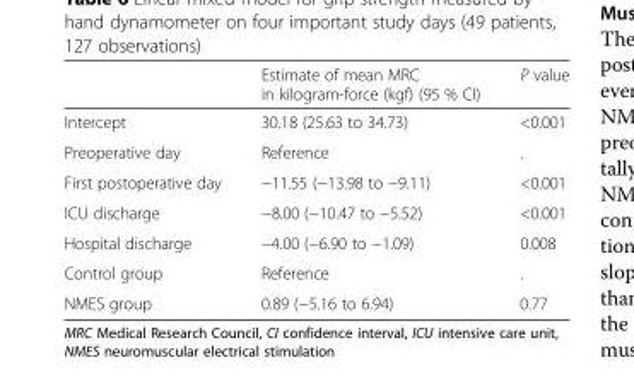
<table><thead><tr><td></td><td>Estimate of mean MRC in kilogram-force (kgf) (95 % CI)</td><td>P value</td></tr></thead><tbody><tr><td>Intercept</td><td>30.18 (25.63 to 34.73)</td><td>&lt;0.001</td></tr><tr><td>Preoperative day</td><td>Reference</td><td>.</td></tr><tr><td>First postoperative day</td><td>−11.55 (−13.98 to −9.11)</td><td>&lt;0.001</td></tr><tr><td>ICU discharge</td><td>−8.00 (−10.47 to −5.52)</td><td>&lt;0.001</td></tr><tr><td>Hospital discharge</td><td>−4.00 (−6.90 to −1.09)</td><td>0.008</td></tr><tr><td>Control group</td><td>Reference</td><td>.</td></tr><tr><td>NMES group</td><td>0.89 (−5.16 to 6.94)</td><td>0.77</td></tr></tbody></table>